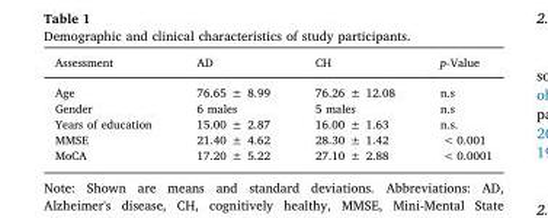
<table><thead><tr><td>Assessment</td><td>AD</td><td>CH</td><td>p-Value</td></tr></thead><tbody><tr><td>Age</td><td>76.65 ± 8.99</td><td>76.26 ± 12.08</td><td>n.s</td></tr><tr><td>Gender</td><td>6 males</td><td>5 males</td><td>n.s</td></tr><tr><td>Years of education</td><td>15.00 ± 2.87</td><td>16.00 ± 1.63</td><td>n.s.</td></tr><tr><td>MMSE</td><td>21.40 ± 4.62</td><td>28.30 ± 1.42</td><td>&lt; 0.001</td></tr><tr><td>MoCA</td><td>17.20 ± 5.22</td><td>27.10 ± 2.88</td><td>&lt; 0.0001</td></tr></tbody></table>